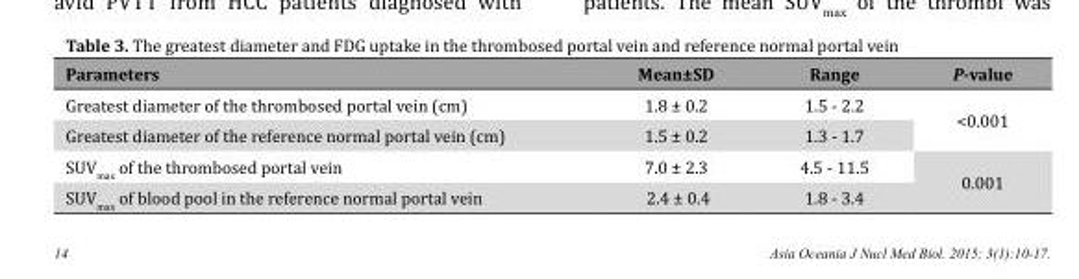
<table><thead><tr><td>Parameters</td><td>Mean±SD</td><td>Range</td><td>P-value</td></tr></thead><tbody><tr><td>Greatest diameter of the thrombosed portal vein (cm)</td><td>1.8 ± 0.2</td><td>1.5 - 2.2</td><td rowspan="2">&lt;0.001</td></tr><tr><td>Greatest diameter of the reference normal portal vein (cm)</td><td>1.5 ± 0.2</td><td>1.3 - 1.7</td></tr><tr><td>SUV<sub>max</sub> of the thrombosed portal vein</td><td>7.0 ± 2.3</td><td>4.5 - 11.5</td><td rowspan="2">0.001</td></tr><tr><td>SUV<sub>max</sub> of blood pool in the reference normal portal vein</td><td>2.4 ± 0.4</td><td>1.8 - 3.4</td></tr></tbody></table>